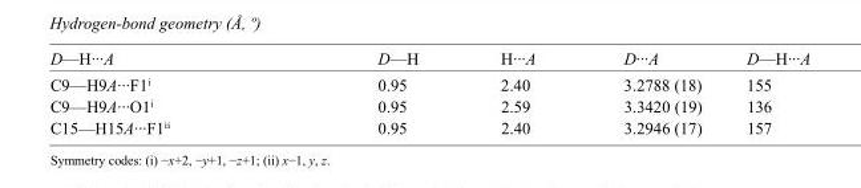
<table><tbody><tr><td>D—H···A</td><td>D—H</td><td>H···A</td><td>D···A</td><td>D—H···A</td></tr><tr><td>C9—H9A···F1<sup>i</sup></td><td>0.95</td><td>2.40</td><td>3.2788 (18)</td><td>155</td></tr><tr><td>C9—H9A···O1<sup>i</sup></td><td>0.95</td><td>2.59</td><td>3.3420 (19)</td><td>136</td></tr><tr><td>C15—H15A···F1<sup>ii</sup></td><td>0.95</td><td>2.40</td><td>3.2946 (17)</td><td>157</td></tr></tbody></table>